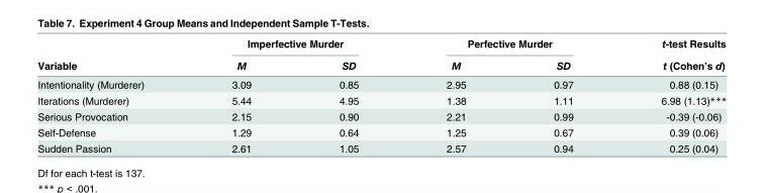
<table><thead><tr><td rowspan="2">Variable</td><td colspan="2">Imperfective Murder</td><td colspan="2">Perfective Murder</td><td rowspan="2">t-test Results t (Cohen’s d)</td></tr><tr><td>M</td><td>SD</td><td>M</td><td>SD</td></tr></thead><tbody><tr><td>Intentionality (Murderer)</td><td>3.09</td><td>0.85</td><td>2.95</td><td>0.97</td><td>0.88 (0.15)</td></tr><tr><td>Iterations (Murderer)</td><td>5.44</td><td>4.95</td><td>1.38</td><td>1.11</td><td>6.98 (1.13)***</td></tr><tr><td>Serious Provocation</td><td>2.15</td><td>0.90</td><td>2.21</td><td>0.99</td><td>-0.39 (-0.06)</td></tr><tr><td>Self-Defense</td><td>1.29</td><td>0.64</td><td>1.25</td><td>0.67</td><td>0.39 (0.06)</td></tr><tr><td>Sudden Passion</td><td>2.61</td><td>1.05</td><td>2.57</td><td>0.94</td><td>0.25 (0.04)</td></tr></tbody></table>